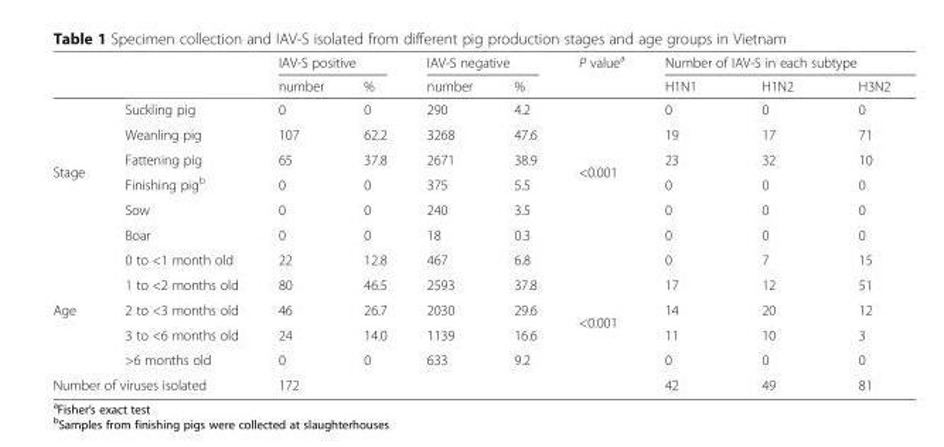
<table><thead><tr><td rowspan="2"></td><td rowspan="2"></td><td colspan="2">IAV-S positive</td><td colspan="2">IAV-S negative</td><td rowspan="2">P value<sup>a</sup></td><td colspan="3">Number of IAV-S in each subtype</td></tr><tr><td>number</td><td>%</td><td>number</td><td>%</td><td>H1N1</td><td>H1N2</td><td>H3N2</td></tr></thead><tbody><tr><td rowspan="6">Stage</td><td>Suckling pig</td><td>0</td><td>0</td><td>290</td><td>4.2</td><td rowspan="6">&lt;0.001</td><td>0</td><td>0</td><td>0</td></tr><tr><td>Weanling pig</td><td>107</td><td>62.2</td><td>3268</td><td>47.6</td><td>19</td><td>17</td><td>71</td></tr><tr><td>Fattening pig</td><td>65</td><td>37.8</td><td>2671</td><td>38.9</td><td>23</td><td>32</td><td>10</td></tr><tr><td>Finishing pig<sup>b</sup></td><td>0</td><td>0</td><td>375</td><td>5.5</td><td>0</td><td>0</td><td>0</td></tr><tr><td>Sow</td><td>0</td><td>0</td><td>240</td><td>3.5</td><td>0</td><td>0</td><td>0</td></tr><tr><td>Boar</td><td>0</td><td>0</td><td>18</td><td>0.3</td><td>0</td><td>0</td><td>0</td></tr><tr><td rowspan="5">Age</td><td>0 to &lt;1 month old</td><td>22</td><td>12.8</td><td>467</td><td>6.8</td><td rowspan="6">&lt;0.001</td><td>0</td><td>7</td><td>15</td></tr><tr><td>1 to &lt;2 months old</td><td>80</td><td>46.5</td><td>2593</td><td>37.8</td><td>17</td><td>12</td><td>51</td></tr><tr><td>2 to &lt;3 months old</td><td>46</td><td>26.7</td><td>2030</td><td>29.6</td><td>14</td><td>20</td><td>12</td></tr><tr><td>3 to &lt;6 months old</td><td>24</td><td>14.0</td><td>1139</td><td>16.6</td><td>11</td><td>10</td><td>3</td></tr><tr><td>&gt;6 months old</td><td>0</td><td>0</td><td>633</td><td>9.2</td><td>0</td><td>0</td><td>0</td></tr><tr><td colspan="2">Number of viruses isolated</td><td>172</td><td></td><td></td><td></td><td>42</td><td>49</td><td>81</td></tr></tbody></table>